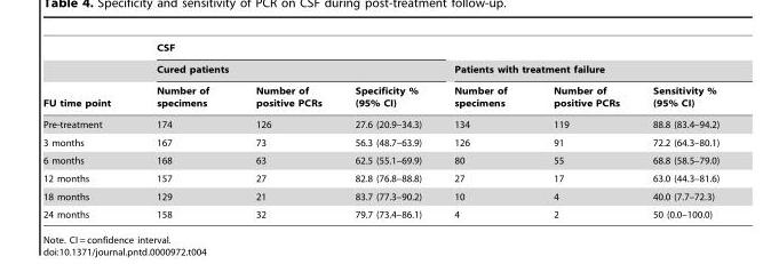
<table><thead><tr><td rowspan="3">FU time point</td><td rowspan="2" colspan="3">CSF Cured patients</td><td></td><td></td><td></td></tr><tr><td colspan="3">Patients with treatment failure</td></tr><tr><td>Number of specimens</td><td>Number of positive PCRs</td><td>Specificity % (95% CI)</td><td>Number of specimens</td><td>Number of positive PCRs</td><td>Sensitivity % (95% CI)</td></tr></thead><tbody><tr><td>Pre-treatment</td><td>174</td><td>126</td><td>27.6 (20.9–34.3)</td><td>134</td><td>119</td><td>88.8 (83.4–94.2)</td></tr><tr><td>3 months</td><td>167</td><td>73</td><td>56.3 (48.7–63.9)</td><td>126</td><td>91</td><td>72.2 (64.3–80.1)</td></tr><tr><td>6 months</td><td>168</td><td>63</td><td>62.5 (55.1–69.9)</td><td>80</td><td>55</td><td>68.8 (58.5–79.0)</td></tr><tr><td>12 months</td><td>157</td><td>27</td><td>82.8 (76.8–88.8)</td><td>27</td><td>17</td><td>63.0 (44.3–81.6)</td></tr><tr><td>18 months</td><td>129</td><td>21</td><td>83.7 (77.3–90.2)</td><td>10</td><td>4</td><td>40.0 (7.7–72.3)</td></tr><tr><td>24 months</td><td>158</td><td>32</td><td>79.7 (73.4–86.1)</td><td>4</td><td>2</td><td>50 (0.0–100.0)</td></tr></tbody></table>